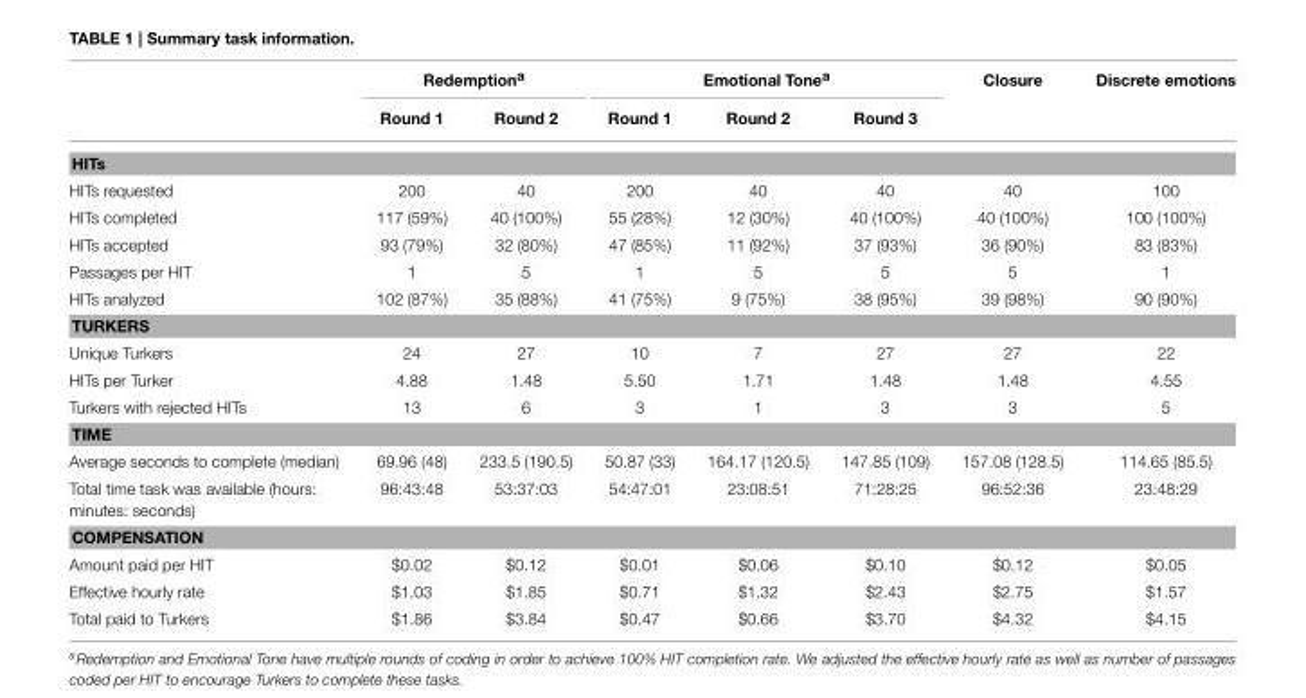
<table><thead><tr><td rowspan="2"></td><td colspan="2">Redemption<sup>a</sup></td><td colspan="3">Emotional Tone<sup>a</sup></td><td rowspan="2">Closure</td><td rowspan="2">Discrete emotions</td></tr><tr><td>Round 1</td><td>Round 2</td><td>Round 1</td><td>Round 2</td><td>Round 3</td></tr></thead><tbody><tr><td colspan="8">HITs</td></tr><tr><td>HITs requested</td><td>200</td><td>40</td><td>200</td><td>40</td><td>40</td><td>40</td><td>100</td></tr><tr><td>HITs completed</td><td>117 (59%)</td><td>40 (100%)</td><td>55 (28%)</td><td>12 (30%)</td><td>40 (100%)</td><td>40 (100%)</td><td>100 (100%)</td></tr><tr><td>HITs accepted</td><td>93 (79%)</td><td>32 (80%)</td><td>47 (85%)</td><td>11 (92%)</td><td>37 (93%)</td><td>36 (90%)</td><td>83 (83%)</td></tr><tr><td>Passages per HIT</td><td>1</td><td>5</td><td>1</td><td>5</td><td>5</td><td>5</td><td>1</td></tr><tr><td>HITs analyzed</td><td>102 (87%)</td><td>35 (88%)</td><td>41 (75%)</td><td>9 (75%)</td><td>38 (95%)</td><td>39 (98%)</td><td>90 (90%)</td></tr><tr><td colspan="8">TURKERS</td></tr><tr><td>Unique Turkers</td><td>24</td><td>27</td><td>10</td><td>7</td><td>27</td><td>27</td><td>22</td></tr><tr><td>HITs per Turker</td><td>4.88</td><td>1.48</td><td>5.50</td><td>1.71</td><td>1.48</td><td>1.48</td><td>4.55</td></tr><tr><td>Turkers with rejected HITs</td><td>13</td><td>6</td><td>3</td><td>1</td><td>3</td><td>3</td><td>5</td></tr><tr><td colspan="8">TIME</td></tr><tr><td>Average seconds to complete (median)</td><td>69.96 (48)</td><td>233.5 (190.5)</td><td>50.87 (33)</td><td>164.17 (120.5)</td><td>147.85 (109)</td><td>157.08 (128.5)</td><td>114.65 (85.5)</td></tr><tr><td>Total time task was available (hours: minutes: seconds)</td><td>96:43:48</td><td>53:37:03</td><td>54:47:01</td><td>23:08:51</td><td>71:28:25</td><td>96:52:36</td><td>23:48:29</td></tr><tr><td colspan="8">COMPENSATION</td></tr><tr><td>Amount paid per HIT</td><td>$0.02</td><td>$0.12</td><td>$0.01</td><td>$0.06</td><td>$0.10</td><td>$0.12</td><td>$0.05</td></tr><tr><td>Effective hourly rate</td><td>$1.03</td><td>$1.85</td><td>$0.71</td><td>$1.32</td><td>$2.43</td><td>$2.75</td><td>$1.57</td></tr><tr><td>Total paid to Turkers</td><td>$1.86</td><td>$3.84</td><td>$0.47</td><td>$0.66</td><td>$3.70</td><td>$4.32</td><td>$4.15</td></tr></tbody></table>